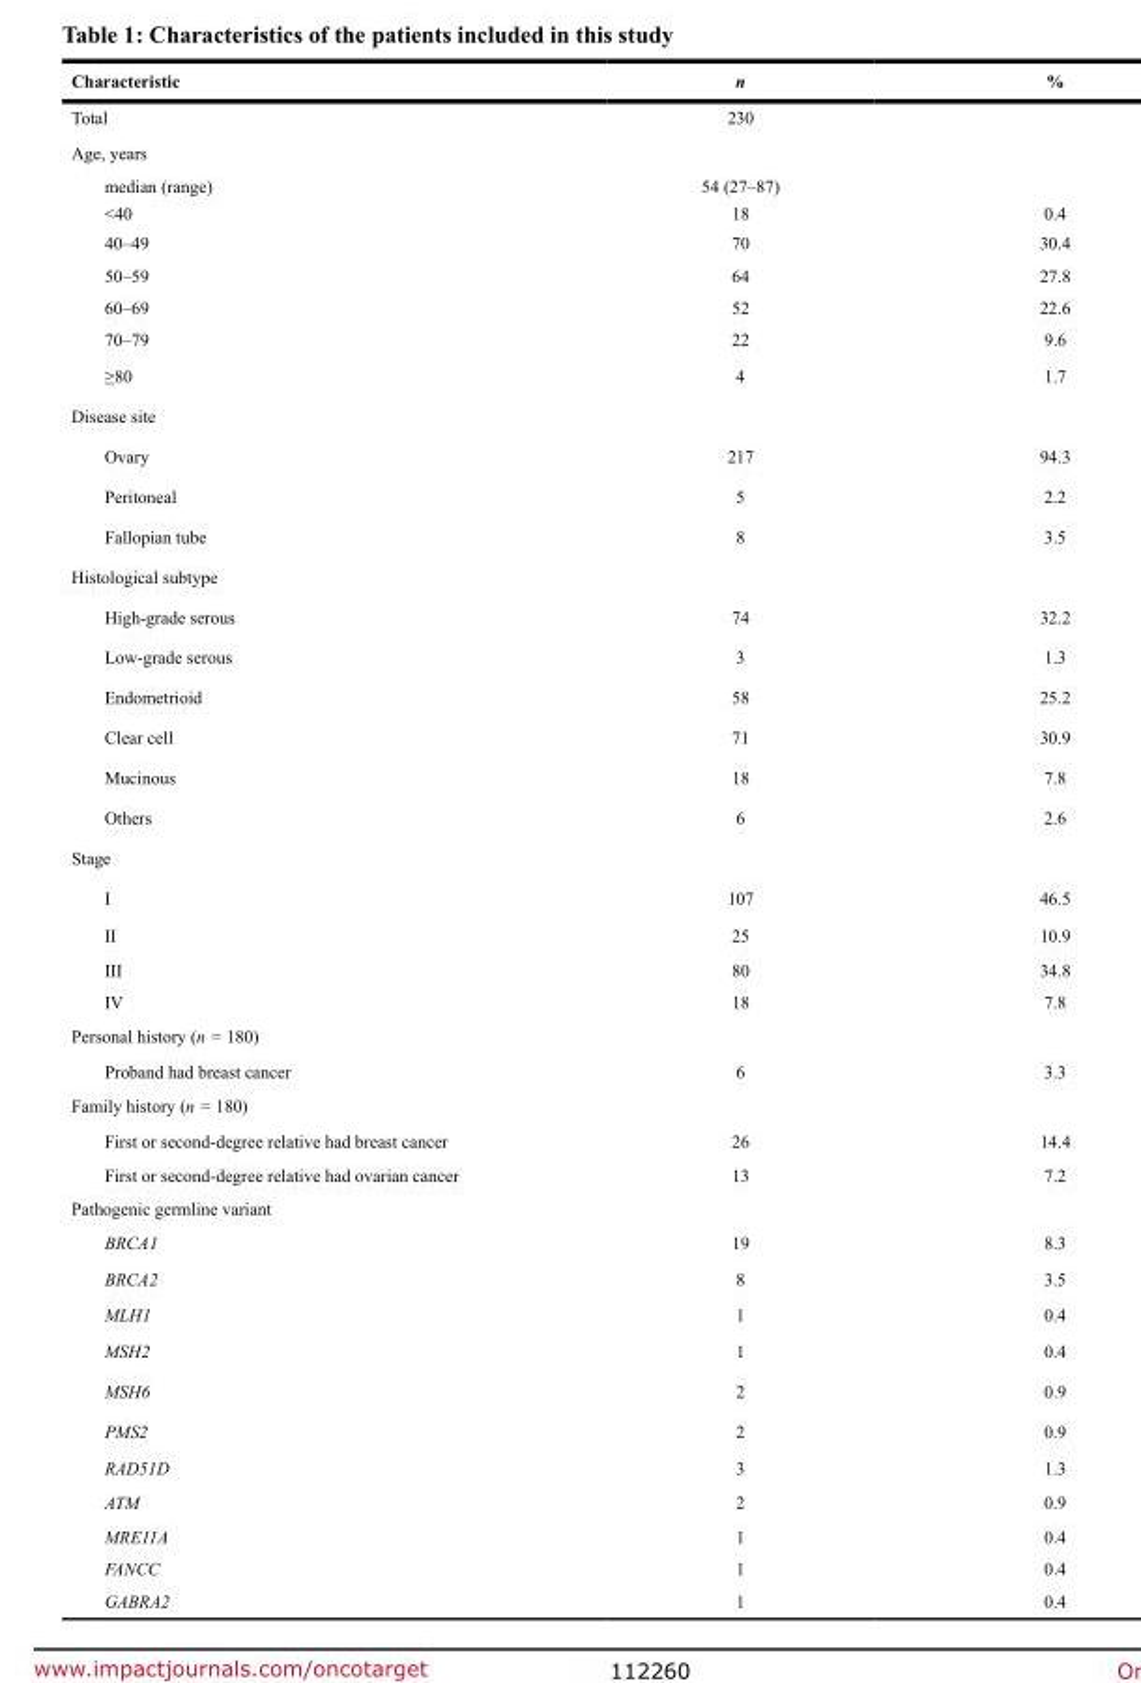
<table><thead><tr><td>Characteristic</td><td>n</td><td>%</td></tr></thead><tbody><tr><td>Total</td><td>230</td><td></td></tr><tr><td colspan="3">Age, years</td></tr><tr><td>median (range)</td><td>54 (27–87)</td><td></td></tr><tr><td>&lt;40</td><td>18</td><td>0.4</td></tr><tr><td>40–49</td><td>70</td><td>30.4</td></tr><tr><td>50–59</td><td>64</td><td>27.8</td></tr><tr><td>60–69</td><td>52</td><td>22.6</td></tr><tr><td>70–79</td><td>22</td><td>9.6</td></tr><tr><td>≥80</td><td>4</td><td>1.7</td></tr><tr><td colspan="3">Disease site</td></tr><tr><td>Ovary</td><td>217</td><td>94.3</td></tr><tr><td>Peritoneal</td><td>5</td><td>2.2</td></tr><tr><td>Fallopian tube</td><td>8</td><td>3.5</td></tr><tr><td colspan="3">Histological subtype</td></tr><tr><td>High-grade serous</td><td>74</td><td>32.2</td></tr><tr><td>Low-grade serous</td><td>3</td><td>1.3</td></tr><tr><td>Endometrioid</td><td>58</td><td>25.2</td></tr><tr><td>Clear cell</td><td>71</td><td>30.9</td></tr><tr><td>Mucinous</td><td>18</td><td>7.8</td></tr><tr><td>Others</td><td>6</td><td>2.6</td></tr><tr><td colspan="3">Stage</td></tr><tr><td>I</td><td>107</td><td>46.5</td></tr><tr><td>II</td><td>25</td><td>10.9</td></tr><tr><td>III</td><td>80</td><td>34.8</td></tr><tr><td>IV</td><td>18</td><td>7.8</td></tr><tr><td colspan="3">Personal history (n = 180)</td></tr><tr><td>Proband had breast cancer</td><td>6</td><td>3.3</td></tr><tr><td colspan="3">Family history (n = 180)</td></tr><tr><td>First or second-degree relative had breast cancer</td><td>26</td><td>14.4</td></tr><tr><td>First or second-degree relative had ovarian cancer</td><td>13</td><td>7.2</td></tr><tr><td colspan="3">Pathogenic germline variant</td></tr><tr><td>BRCA1</td><td>19</td><td>8.3</td></tr><tr><td>BRCA2</td><td>8</td><td>3.5</td></tr><tr><td>MLH1</td><td>1</td><td>0.4</td></tr><tr><td>MSH2</td><td>1</td><td>0.4</td></tr><tr><td>MSH6</td><td>2</td><td>0.9</td></tr><tr><td>PMS2</td><td>2</td><td>0.9</td></tr><tr><td>RAD51D</td><td>3</td><td>1.3</td></tr><tr><td>ATM</td><td>2</td><td>0.9</td></tr><tr><td>MRE11A</td><td>1</td><td>0.4</td></tr><tr><td>FANCC</td><td>1</td><td>0.4</td></tr><tr><td>GABRA2</td><td>1</td><td>0.4</td></tr></tbody></table>